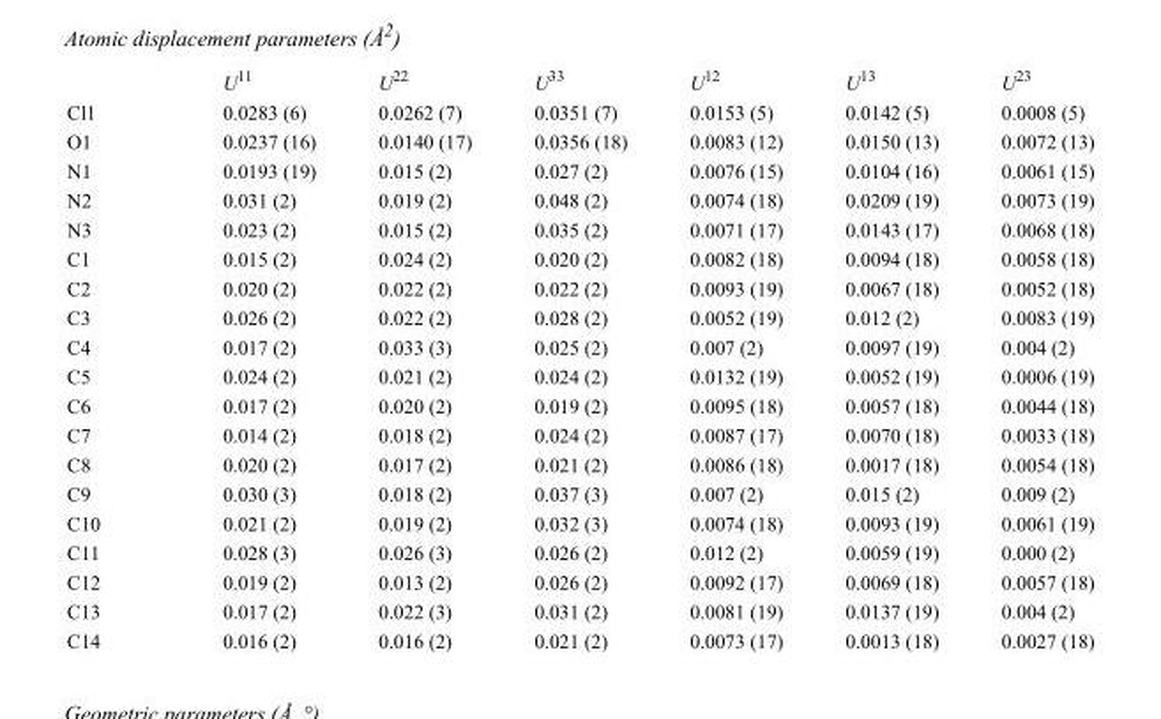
<table><thead><tr><td></td><td>U<sup>11</sup></td><td>U<sup>22</sup></td><td>U<sup>33</sup></td><td>U<sup>12</sup></td><td>U<sup>13</sup></td><td>U<sup>23</sup></td></tr></thead><tbody><tr><td>Cl1</td><td>0.0283 (6)</td><td>0.0262 (7)</td><td>0.0351 (7)</td><td>0.0153 (5)</td><td>0.0142 (5)</td><td>0.0008 (5)</td></tr><tr><td>O1</td><td>0.0237 (16)</td><td>0.0140 (17)</td><td>0.0356 (18)</td><td>0.0083 (12)</td><td>0.0150 (13)</td><td>0.0072 (13)</td></tr><tr><td>N1</td><td>0.0193 (19)</td><td>0.015 (2)</td><td>0.027 (2)</td><td>0.0076 (15)</td><td>0.0104 (16)</td><td>0.0061 (15)</td></tr><tr><td>N2</td><td>0.031 (2)</td><td>0.019 (2)</td><td>0.048 (2)</td><td>0.0074 (18)</td><td>0.0209 (19)</td><td>0.0073 (19)</td></tr><tr><td>N3</td><td>0.023 (2)</td><td>0.015 (2)</td><td>0.035 (2)</td><td>0.0071 (17)</td><td>0.0143 (17)</td><td>0.0068 (18)</td></tr><tr><td>C1</td><td>0.015 (2)</td><td>0.024 (2)</td><td>0.020 (2)</td><td>0.0082 (18)</td><td>0.0094 (18)</td><td>0.0058 (18)</td></tr><tr><td>C2</td><td>0.020 (2)</td><td>0.022 (2)</td><td>0.022 (2)</td><td>0.0093 (19)</td><td>0.0067 (18)</td><td>0.0052 (18)</td></tr><tr><td>C3</td><td>0.026 (2)</td><td>0.022 (2)</td><td>0.028 (2)</td><td>0.0052 (19)</td><td>0.012 (2)</td><td>0.0083 (19)</td></tr><tr><td>C4</td><td>0.017 (2)</td><td>0.033 (3)</td><td>0.025 (2)</td><td>0.007 (2)</td><td>0.0097 (19)</td><td>0.004 (2)</td></tr><tr><td>C5</td><td>0.024 (2)</td><td>0.021 (2)</td><td>0.024 (2)</td><td>0.0132 (19)</td><td>0.0052 (19)</td><td>0.0006 (19)</td></tr><tr><td>C6</td><td>0.017 (2)</td><td>0.020 (2)</td><td>0.019 (2)</td><td>0.0095 (18)</td><td>0.0057 (18)</td><td>0.0044 (18)</td></tr><tr><td>C7</td><td>0.014 (2)</td><td>0.018 (2)</td><td>0.024 (2)</td><td>0.0087 (17)</td><td>0.0070 (18)</td><td>0.0033 (18)</td></tr><tr><td>C8</td><td>0.020 (2)</td><td>0.017 (2)</td><td>0.021 (2)</td><td>0.0086 (18)</td><td>0.0017 (18)</td><td>0.0054 (18)</td></tr><tr><td>C9</td><td>0.030 (3)</td><td>0.018 (2)</td><td>0.037 (3)</td><td>0.007 (2)</td><td>0.015 (2)</td><td>0.009 (2)</td></tr><tr><td>C10</td><td>0.021 (2)</td><td>0.019 (2)</td><td>0.032 (3)</td><td>0.0074 (18)</td><td>0.0093 (19)</td><td>0.0061 (19)</td></tr><tr><td>C11</td><td>0.028 (3)</td><td>0.026 (3)</td><td>0.026 (2)</td><td>0.012 (2)</td><td>0.0059 (19)</td><td>0.000 (2)</td></tr><tr><td>C12</td><td>0.019 (2)</td><td>0.013 (2)</td><td>0.026 (2)</td><td>0.0092 (17)</td><td>0.0069 (18)</td><td>0.0057 (18)</td></tr><tr><td>C13</td><td>0.017 (2)</td><td>0.022 (3)</td><td>0.031 (2)</td><td>0.0081 (19)</td><td>0.0137 (19)</td><td>0.004 (2)</td></tr><tr><td>C14</td><td>0.016 (2)</td><td>0.016 (2)</td><td>0.021 (2)</td><td>0.0073 (17)</td><td>0.0013 (18)</td><td>0.0027 (18)</td></tr></tbody></table>